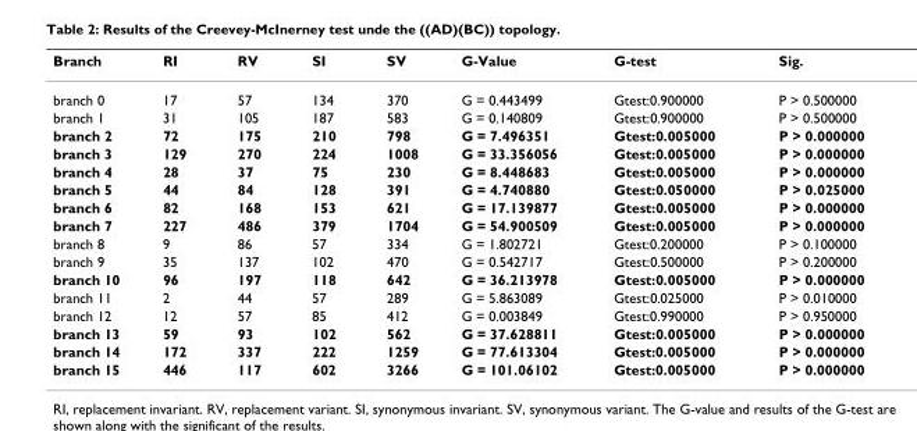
<table><thead><tr><td>Branch</td><td>RI</td><td>RV</td><td>SI</td><td>SV</td><td>G-Value</td><td>G-test</td><td>Sig.</td></tr></thead><tbody><tr><td>branch 0</td><td>17</td><td>57</td><td>134</td><td>370</td><td>G = 0.443499</td><td>Gtest:0.900000</td><td>P &gt; 0.500000</td></tr><tr><td>branch 1</td><td>31</td><td>105</td><td>187</td><td>583</td><td>G = 0.140809</td><td>Gtest:0.900000</td><td>P &gt; 0.500000</td></tr><tr><td>branch 2</td><td>72</td><td>175</td><td>210</td><td>798</td><td>G = 7.496351</td><td>Gtest:0.005000</td><td>P &gt; 0.000000</td></tr><tr><td>branch 3</td><td>129</td><td>270</td><td>224</td><td>1008</td><td>G = 33.356056</td><td>Gtest:0.005000</td><td>P &gt; 0.000000</td></tr><tr><td>branch 4</td><td>28</td><td>37</td><td>75</td><td>230</td><td>G = 8.448683</td><td>Gtest:0.005000</td><td>P &gt; 0.000000</td></tr><tr><td>branch 5</td><td>44</td><td>84</td><td>128</td><td>391</td><td>G = 4.740880</td><td>Gtest:0.050000</td><td>P &gt; 0.025000</td></tr><tr><td>branch 6</td><td>82</td><td>168</td><td>153</td><td>621</td><td>G = 17.139877</td><td>Gtest:0.005000</td><td>P &gt; 0.000000</td></tr><tr><td>branch 7</td><td>227</td><td>486</td><td>379</td><td>1704</td><td>G = 54.900509</td><td>Gtest:0.005000</td><td>P &gt; 0.000000</td></tr><tr><td>branch 8</td><td>9</td><td>86</td><td>57</td><td>334</td><td>G = 1.802721</td><td>Gtest:0.200000</td><td>P &gt; 0.100000</td></tr><tr><td>branch 9</td><td>35</td><td>137</td><td>102</td><td>470</td><td>G = 0.542717</td><td>Gtest:0.500000</td><td>P &gt; 0.200000</td></tr><tr><td>branch 10</td><td>96</td><td>197</td><td>118</td><td>642</td><td>G = 36.213978</td><td>Gtest:0.005000</td><td>P &gt; 0.000000</td></tr><tr><td>branch 11</td><td>2</td><td>44</td><td>57</td><td>289</td><td>G = 5.863089</td><td>Gtest:0.025000</td><td>P &gt; 0.010000</td></tr><tr><td>branch 12</td><td>12</td><td>57</td><td>85</td><td>412</td><td>G = 0.003849</td><td>Gtest:0.990000</td><td>P &gt; 0.950000</td></tr><tr><td>branch 13</td><td>59</td><td>93</td><td>102</td><td>562</td><td>G = 37.628811</td><td>Gtest:0.005000</td><td>P &gt; 0.000000</td></tr><tr><td>branch 14</td><td>172</td><td>337</td><td>222</td><td>1259</td><td>G = 77.613304</td><td>Gtest:0.005000</td><td>P &gt; 0.000000</td></tr><tr><td>branch 15</td><td>446</td><td>117</td><td>602</td><td>3266</td><td>G = 101.06102</td><td>Gtest:0.005000</td><td>P &gt; 0.000000</td></tr></tbody></table>